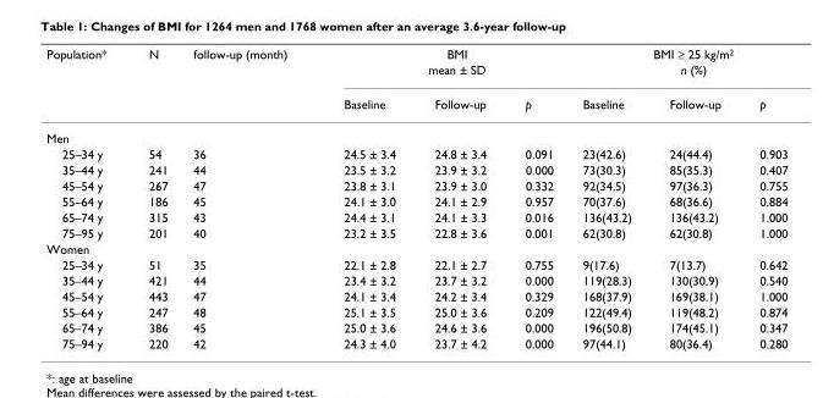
<table><thead><tr><td rowspan="3">Population*</td><td rowspan="3">N</td><td rowspan="3">follow-up (month)</td><td rowspan="2" colspan="3">BMI mean ± SD</td><td rowspan="2" colspan="3">BMI ≥ 25 kg/m<sup>2</sup> n (%)</td></tr><tr></tr><tr><td>Baseline</td><td>Follow-up</td><td>p</td><td>Baseline</td><td>Follow-up</td><td>p</td></tr></thead><tbody><tr><td colspan="9">Men</td></tr><tr><td>25–34 y</td><td>54</td><td>36</td><td>24.5 ± 3.4</td><td>24.8 ± 3.4</td><td>0.091</td><td>23(42.6)</td><td>24(44.4)</td><td>0.903</td></tr><tr><td>35–44 y</td><td>241</td><td>44</td><td>23.5 ± 3.2</td><td>23.9 ± 3.2</td><td>0.000</td><td>73(30.3)</td><td>85(35.3)</td><td>0.407</td></tr><tr><td>45–54 y</td><td>267</td><td>47</td><td>23.8 ± 3.1</td><td>23.9 ± 3.0</td><td>0.332</td><td>92(34.5)</td><td>97(36.3)</td><td>0.755</td></tr><tr><td>55–64 y</td><td>186</td><td>45</td><td>24.1 ± 3.0</td><td>24.1 ± 2.9</td><td>0.957</td><td>70(37.6)</td><td>68(36.6)</td><td>0.884</td></tr><tr><td>65–74 y</td><td>315</td><td>43</td><td>24.4 ± 3.1</td><td>24.1 ± 3.3</td><td>0.016</td><td>136(43.2)</td><td>136(43.2)</td><td>1.000</td></tr><tr><td>75–95 y</td><td>201</td><td>40</td><td>23.2 ± 3.5</td><td>22.8 ± 3.6</td><td>0.001</td><td>62(30.8)</td><td>62(30.8)</td><td>1.000</td></tr><tr><td colspan="9">Women</td></tr><tr><td>25–34 y</td><td>51</td><td>35</td><td>22.1 ± 2.8</td><td>22.1 ± 2.7</td><td>0.755</td><td>9(17.6)</td><td>7(13.7)</td><td>0.642</td></tr><tr><td>35–44 y</td><td>421</td><td>44</td><td>23.4 ± 3.2</td><td>23.7 ± 3.2</td><td>0.000</td><td>119(28.3)</td><td>130(30.9)</td><td>0.540</td></tr><tr><td>45–54 y</td><td>443</td><td>47</td><td>24.1 ± 3.4</td><td>24.2 ± 3.4</td><td>0.329</td><td>168(37.9)</td><td>169(38.1)</td><td>1.000</td></tr><tr><td>55–64 y</td><td>247</td><td>48</td><td>25.1 ± 3.5</td><td>25.0 ± 3.6</td><td>0.209</td><td>122(49.4)</td><td>119(48.2)</td><td>0.874</td></tr><tr><td>65–74 y</td><td>386</td><td>45</td><td>25.0 ± 3.6</td><td>24.6 ± 3.6</td><td>0.000</td><td>196(50.8)</td><td>174(45.1)</td><td>0.347</td></tr><tr><td>75–94 y</td><td>220</td><td>42</td><td>24.3 ± 4.0</td><td>23.7 ± 4.2</td><td>0.000</td><td>97(44.1)</td><td>80(36.4)</td><td>0.280</td></tr></tbody></table>